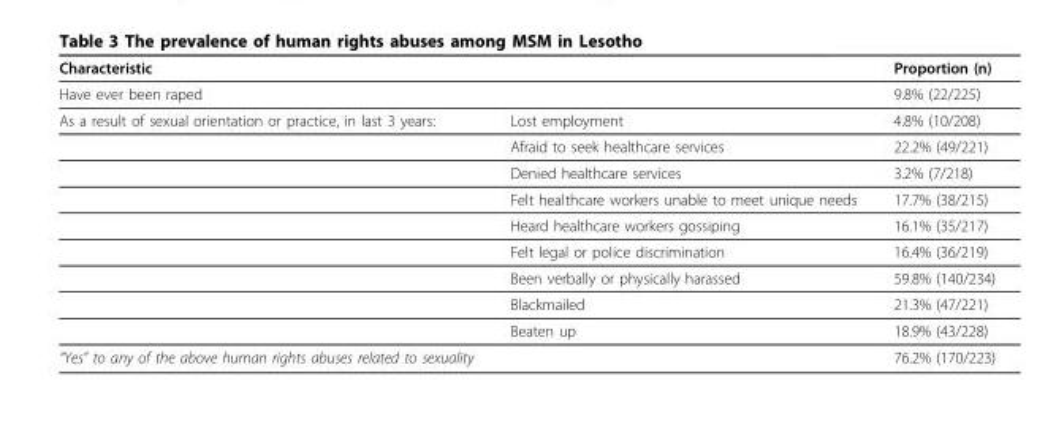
<table><thead><tr><td>Characteristic</td><td></td><td>Proportion (n)</td></tr></thead><tbody><tr><td>Have ever been raped</td><td></td><td>9.8% (22/225)</td></tr><tr><td rowspan="9">As a result of sexual orientation or practice, in last 3 years:</td><td>Lost employment</td><td>4.8% (10/208)</td></tr><tr><td>Afraid to seek healthcare services</td><td>22.2% (49/221)</td></tr><tr><td>Denied healthcare services</td><td>3.2% (7/218)</td></tr><tr><td>Felt healthcare workers unable to meet unique needs</td><td>17.7% (38/215)</td></tr><tr><td>Heard healthcare workers gossiping</td><td>16.1% (35/217)</td></tr><tr><td>Felt legal or police discrimination</td><td>16.4% (36/219)</td></tr><tr><td>Been verbally or physically harassed</td><td>59.8% (140/234)</td></tr><tr><td>Blackmailed</td><td>21.3% (47/221)</td></tr><tr><td>Beaten up</td><td>18.9% (43/228)</td></tr><tr><td>“Yes” to any of the above human rights abuses related to sexuality</td><td></td><td>76.2% (170/223)</td></tr></tbody></table>